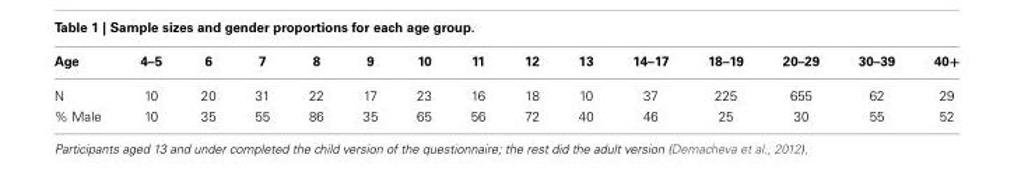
<table><thead><tr><td>Age</td><td>4–5</td><td>6</td><td>7</td><td>8</td><td>9</td><td>10</td><td>11</td><td>12</td><td>13</td><td>14–17</td><td>18–19</td><td>20–29</td><td>30–39</td><td>40+</td></tr></thead><tbody><tr><td>N</td><td>10</td><td>20</td><td>31</td><td>22</td><td>17</td><td>23</td><td>16</td><td>18</td><td>10</td><td>37</td><td>225</td><td>655</td><td>62</td><td>29</td></tr><tr><td>% Male</td><td>10</td><td>35</td><td>55</td><td>86</td><td>35</td><td>65</td><td>56</td><td>72</td><td>40</td><td>46</td><td>25</td><td>30</td><td>55</td><td>52</td></tr></tbody></table>